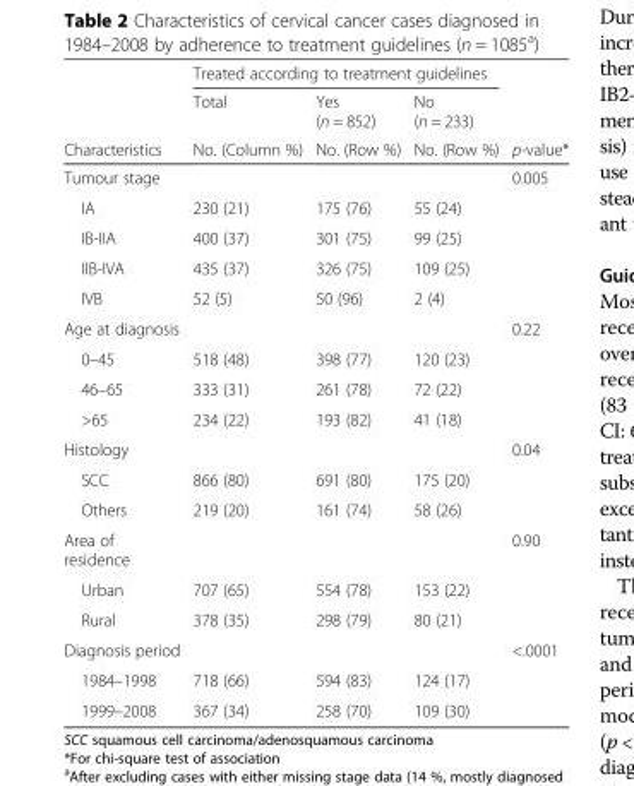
<table><thead><tr><td rowspan="3">Characteristics</td><td colspan="3">Treated according to treatment guidelines</td><td rowspan="3">p-value*</td></tr><tr><td rowspan="2">Total No. (Column %)</td><td rowspan="2">Yes (n = 852) No. (Row %)</td><td rowspan="2">No (n = 233) No. (Row %)</td></tr><tr></tr></thead><tbody><tr><td>Tumour stage</td><td></td><td></td><td></td><td>0.005</td></tr><tr><td>IA</td><td>230 (21)</td><td>175 (76)</td><td>55 (24)</td><td></td></tr><tr><td>IB-IIA</td><td>400 (37)</td><td>301 (75)</td><td>99 (25)</td><td></td></tr><tr><td>IIB-IVA</td><td>435 (37)</td><td>326 (75)</td><td>109 (25)</td><td></td></tr><tr><td>IVB</td><td>52 (5)</td><td>50 (96)</td><td>2 (4)</td><td></td></tr><tr><td>Age at diagnosis</td><td></td><td></td><td></td><td>0.22</td></tr><tr><td>0–45</td><td>518 (48)</td><td>398 (77)</td><td>120 (23)</td><td></td></tr><tr><td>46–65</td><td>333 (31)</td><td>261 (78)</td><td>72 (22)</td><td></td></tr><tr><td>&gt;65</td><td>234 (22)</td><td>193 (82)</td><td>41 (18)</td><td></td></tr><tr><td>Histology</td><td></td><td></td><td></td><td>0.04</td></tr><tr><td>SCC</td><td>866 (80)</td><td>691 (80)</td><td>175 (20)</td><td></td></tr><tr><td>Others</td><td>219 (20)</td><td>161 (74)</td><td>58 (26)</td><td></td></tr><tr><td>Area of residence</td><td></td><td></td><td></td><td>0.90</td></tr><tr><td>Urban</td><td>707 (65)</td><td>554 (78)</td><td>153 (22)</td><td></td></tr><tr><td>Rural</td><td>378 (35)</td><td>298 (79)</td><td>80 (21)</td><td></td></tr><tr><td>Diagnosis period</td><td></td><td></td><td></td><td>&lt;.0001</td></tr><tr><td>1984–1998</td><td>718 (66)</td><td>594 (83)</td><td>124 (17)</td><td></td></tr><tr><td>1999–2008</td><td>367 (34)</td><td>258 (70)</td><td>109 (30)</td><td></td></tr></tbody></table>